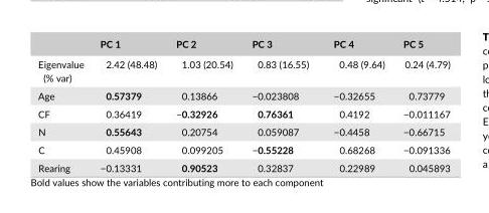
<table><thead><tr><td></td><td>PC 1</td><td>PC 2</td><td>PC 3</td><td>PC 4</td><td>PC 5</td></tr></thead><tbody><tr><td>Eigenvalue (% var)</td><td>2.42 (48.48)</td><td>1.03 (20.54)</td><td>0.83 (16.55)</td><td>0.48 (9.64)</td><td>0.24 (4.79)</td></tr><tr><td>Age</td><td>0.57379</td><td>0.13866</td><td>−0.023808</td><td>−0.32655</td><td>0.73779</td></tr><tr><td>CF</td><td>0.36419</td><td>−0.32926</td><td>0.76361</td><td>0.4192</td><td>−0.011167</td></tr><tr><td>N</td><td>0.55643</td><td>0.20754</td><td>0.059087</td><td>−0.4458</td><td>−0.66715</td></tr><tr><td>C</td><td>0.45908</td><td>0.099205</td><td>−0.55228</td><td>0.68268</td><td>−0.091336</td></tr><tr><td>Rearing</td><td>−0.13331</td><td>0.90523</td><td>0.32837</td><td>0.22989</td><td>0.045893</td></tr></tbody></table>